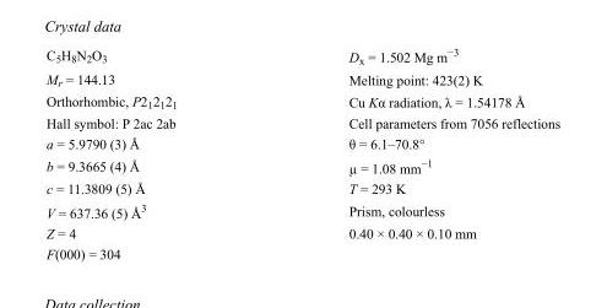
<table><tbody><tr><td>C<sub>5</sub>H<sub>8</sub>N<sub>2</sub>O<sub>3</sub></td><td>D<sub>x</sub> = 1.502 Mg m<sup>−3</sup></td></tr><tr><td>M<sub>r</sub> = 144.13</td><td>Melting point: 423(2) K</td></tr><tr><td>Orthorhombic, P2<sub>1</sub>2<sub>1</sub>2<sub>1</sub></td><td>Cu Kα radiation, λ = 1.54178 Å</td></tr><tr><td>Hall symbol: P 2ac 2ab</td><td>Cell parameters from 7056 reflections</td></tr><tr><td>a = 5.9790 (3) Å</td><td>θ = 6.1–70.8°</td></tr><tr><td>b = 9.3665 (4) Å</td><td>µ = 1.08 mm<sup>−1</sup></td></tr><tr><td>c = 11.3809 (5) Å</td><td>T = 293 K</td></tr><tr><td>V = 637.36 (5) Å<sup>3</sup></td><td>Prism, colourless</td></tr><tr><td>Z = 4</td><td>0.40 × 0.40 × 0.10 mm</td></tr><tr><td>F(000) = 304</td><td></td></tr></tbody></table>